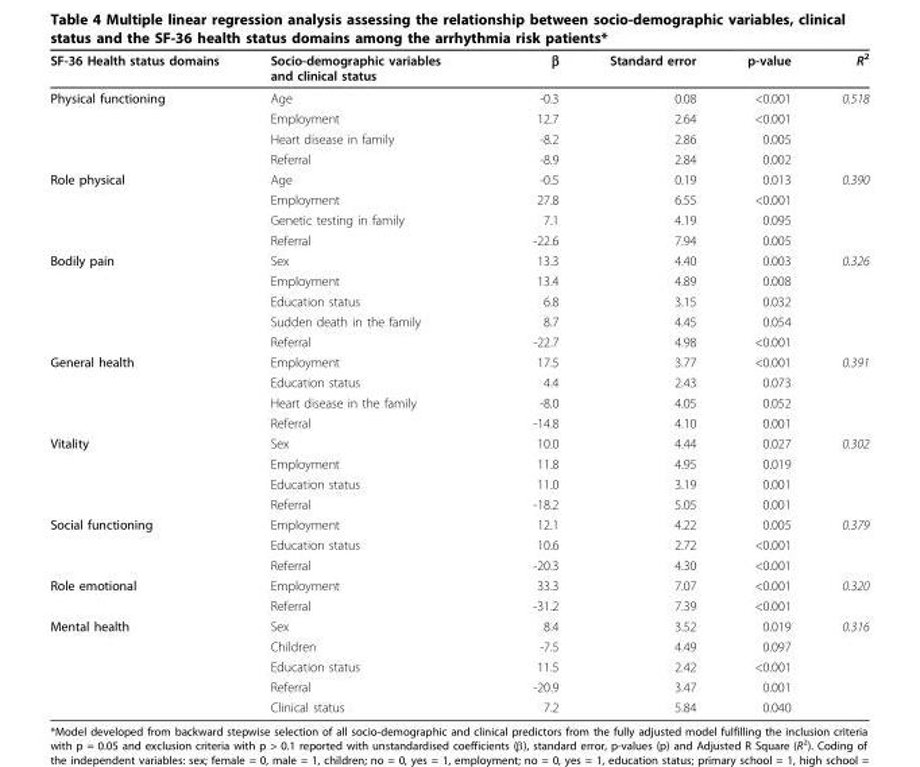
<table><thead><tr><td>SF-36 Health status domains</td><td>Socio-demographic variables and clinical status</td><td>β</td><td>Standard error</td><td>p-value</td><td>R<sup>2</sup></td></tr></thead><tbody><tr><td rowspan="4">Physical functioning</td><td>Age</td><td>-0.3</td><td>0.08</td><td>&lt;0.001</td><td>0.518</td></tr><tr><td>Employment</td><td>12.7</td><td>2.64</td><td>&lt;0.001</td><td></td></tr><tr><td>Heart disease in family</td><td>-8.2</td><td>2.86</td><td>0.005</td><td></td></tr><tr><td>Referral</td><td>-8.9</td><td>2.84</td><td>0.002</td><td></td></tr><tr><td rowspan="4">Role physical</td><td>Age</td><td>-0.5</td><td>0.19</td><td>0.013</td><td>0.390</td></tr><tr><td>Employment</td><td>27.8</td><td>6.55</td><td>&lt;0.001</td><td></td></tr><tr><td>Genetic testing in family</td><td>7.1</td><td>4.19</td><td>0.095</td><td></td></tr><tr><td>Referral</td><td>-22.6</td><td>7.94</td><td>0.005</td><td></td></tr><tr><td rowspan="5">Bodily pain</td><td>Sex</td><td>13.3</td><td>4.40</td><td>0.003</td><td>0.326</td></tr><tr><td>Employment</td><td>13.4</td><td>4.89</td><td>0.008</td><td></td></tr><tr><td>Education status</td><td>6.8</td><td>3.15</td><td>0.032</td><td></td></tr><tr><td>Sudden death in the family</td><td>8.7</td><td>4.45</td><td>0.054</td><td></td></tr><tr><td>Referral</td><td>-22.7</td><td>4.98</td><td>&lt;0.001</td><td></td></tr><tr><td rowspan="4">General health</td><td>Employment</td><td>17.5</td><td>3.77</td><td>&lt;0.001</td><td>0.391</td></tr><tr><td>Education status</td><td>4.4</td><td>2.43</td><td>0.073</td><td></td></tr><tr><td>Heart disease in the family</td><td>-8.0</td><td>4.05</td><td>0.052</td><td></td></tr><tr><td>Referral</td><td>-14.8</td><td>4.10</td><td>0.001</td><td></td></tr><tr><td rowspan="4">Vitality</td><td>Sex</td><td>10.0</td><td>4.44</td><td>0.027</td><td>0.302</td></tr><tr><td>Employment</td><td>11.8</td><td>4.95</td><td>0.019</td><td></td></tr><tr><td>Education status</td><td>11.0</td><td>3.19</td><td>0.001</td><td></td></tr><tr><td>Referral</td><td>-18.2</td><td>5.05</td><td>0.001</td><td></td></tr><tr><td rowspan="3">Social functioning</td><td>Employment</td><td>12.1</td><td>4.22</td><td>0.005</td><td>0.379</td></tr><tr><td>Education status</td><td>10.6</td><td>2.72</td><td>&lt;0.001</td><td></td></tr><tr><td>Referral</td><td>-20.3</td><td>4.30</td><td>&lt;0.001</td><td></td></tr><tr><td rowspan="2">Role emotional</td><td>Employment</td><td>33.3</td><td>7.07</td><td>&lt;0.001</td><td>0.320</td></tr><tr><td>Referral</td><td>-31.2</td><td>7.39</td><td>&lt;0.001</td><td></td></tr><tr><td rowspan="5">Mental health</td><td>Sex</td><td>8.4</td><td>3.52</td><td>0.019</td><td>0.316</td></tr><tr><td>Children</td><td>-7.5</td><td>4.49</td><td>0.097</td><td></td></tr><tr><td>Education status</td><td>11.5</td><td>2.42</td><td>&lt;0.001</td><td></td></tr><tr><td>Referral</td><td>-20.9</td><td>3.47</td><td>0.001</td><td></td></tr><tr><td>Clinical status</td><td>7.2</td><td>5.84</td><td>0.040</td><td></td></tr></tbody></table>